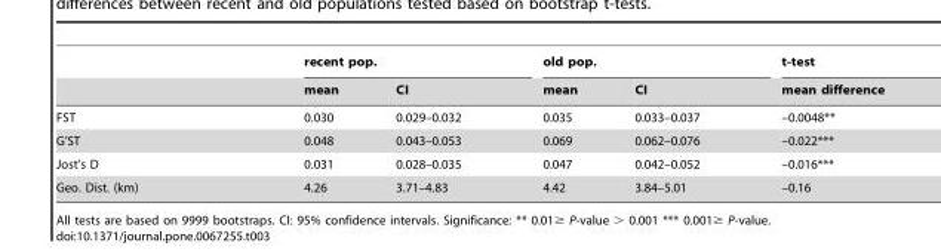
<table><thead><tr><td rowspan="2"></td><td colspan="2">recent pop.</td><td colspan="2">old pop.</td><td rowspan="2">t-test mean difference</td></tr><tr><td>mean</td><td>CI</td><td>mean</td><td>CI</td></tr></thead><tbody><tr><td>FST</td><td>0.030</td><td>0.029–0.032</td><td>0.035</td><td>0.033–0.037</td><td>–0.0048**</td></tr><tr><td>G’ST</td><td>0.048</td><td>0.043–0.053</td><td>0.069</td><td>0.062–0.076</td><td>–0.022***</td></tr><tr><td>Jost’s D</td><td>0.031</td><td>0.028–0.035</td><td>0.047</td><td>0.042–0.052</td><td>–0.016***</td></tr><tr><td>Geo. Dist. (km)</td><td>4.26</td><td>3.71–4.83</td><td>4.42</td><td>3.84–5.01</td><td>–0.16</td></tr></tbody></table>